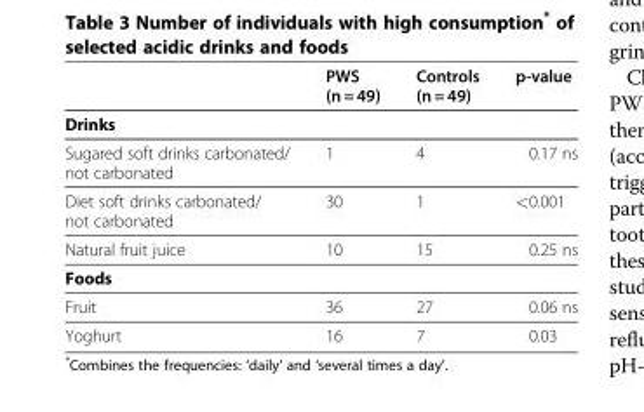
<table><thead><tr><td></td><td>PWS (n = 49)</td><td>Controls (n = 49)</td><td>p-value</td></tr></thead><tbody><tr><td colspan="4">Drinks</td></tr><tr><td>Sugared soft drinks carbonated/ not carbonated</td><td>1</td><td>4</td><td>0.17 ns</td></tr><tr><td>Diet soft drinks carbonated/ not carbonated</td><td>30</td><td>1</td><td>&lt;0.001</td></tr><tr><td>Natural fruit juice</td><td>10</td><td>15</td><td>0.25 ns</td></tr><tr><td colspan="4">Foods</td></tr><tr><td>Fruit</td><td>36</td><td>27</td><td>0.06 ns</td></tr><tr><td>Yoghurt</td><td>16</td><td>7</td><td>0.03</td></tr></tbody></table>